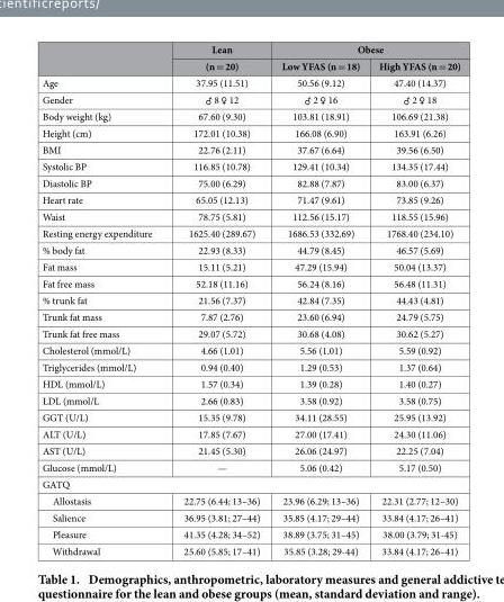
<table><thead><tr><td rowspan="2"></td><td rowspan="2">Lean (n = 20)</td><td colspan="2">Obese</td></tr><tr><td>Low YFAS (n = 18)</td><td>High YFAS (n = 20)</td></tr></thead><tbody><tr><td>Age</td><td>37.95 (11.51)</td><td>50.56 (9.12)</td><td>47.40 (14.37)</td></tr><tr><td>Gender</td><td>♂ 8 ♀ 12</td><td>♂ 2 ♀ 16</td><td>♂ 2 ♀ 18</td></tr><tr><td>Body weight (kg)</td><td>67.60 (9.30)</td><td>103.81 (18.91)</td><td>106.69 (21.38)</td></tr><tr><td>Height (cm)</td><td>172.01 (10.38)</td><td>166.08 (6.90)</td><td>163.91 (6.26)</td></tr><tr><td>BMI</td><td>22.76 (2.11)</td><td>37.67 (6.64)</td><td>39.56 (6.50)</td></tr><tr><td>Systolic BP</td><td>116.85 (10.78)</td><td>129.41 (10.34)</td><td>134.35 (17.44)</td></tr><tr><td>Diastolic BP</td><td>75.00 (6.29)</td><td>82.88 (7.87)</td><td>83.00 (6.37)</td></tr><tr><td>Heart rate</td><td>65.05 (12.13)</td><td>71.47 (9.61)</td><td>73.85 (9.26)</td></tr><tr><td>Waist</td><td>78.75 (5.81)</td><td>112.56 (15.17)</td><td>118.55 (15.96)</td></tr><tr><td>Resting energy expenditure</td><td>1625.40 (289.67)</td><td>1686.53 (332.69)</td><td>1768.40 (234.10)</td></tr><tr><td>% body fat</td><td>22.93 (8.33)</td><td>44.79 (8.45)</td><td>46.57 (5.69)</td></tr><tr><td>Fat mass</td><td>15.11 (5.21)</td><td>47.29 (15.94)</td><td>50.04 (13.37)</td></tr><tr><td>Fat free mass</td><td>52.18 (11.16)</td><td>56.24 (8.16)</td><td>56.48 (11.31)</td></tr><tr><td>% trunk fat</td><td>21.56 (7.37)</td><td>42.84 (7.35)</td><td>44.43 (4.81)</td></tr><tr><td>Trunk fat mass</td><td>7.87 (2.76)</td><td>23.60 (6.94)</td><td>24.79 (5.75)</td></tr><tr><td>Trunk fat free mass</td><td>29.07 (5.72)</td><td>30.68 (4.08)</td><td>30.62 (5.27)</td></tr><tr><td>Cholesterol (mmol/L)</td><td>4.66 (1.01)</td><td>5.56 (1.01)</td><td>5.59 (0.92)</td></tr><tr><td>Triglycerides (mmol/L)</td><td>0.94 (0.40)</td><td>1.29 (0.53)</td><td>1.37 (0.64)</td></tr><tr><td>HDL (mmol/L)</td><td>1.57 (0.34)</td><td>1.39 (0.28)</td><td>1.40 (0.27)</td></tr><tr><td>LDL (mmol/L</td><td>2.66 (0.83)</td><td>3.58 (0.92)</td><td>3.58 (0.75)</td></tr><tr><td>GGT (U/L)</td><td>15.35 (9.78)</td><td>34.11 (28.55)</td><td>25.95 (13.92)</td></tr><tr><td>ALT (U/L)</td><td>17.85 (7.67)</td><td>27.00 (17.41)</td><td>24.30 (11.06)</td></tr><tr><td>AST (U/L)</td><td>21.45 (5.30)</td><td>26.06 (24.97)</td><td>22.25 (7.04)</td></tr><tr><td>Glucose (mmol/L)</td><td>—</td><td>5.06 (0.42)</td><td>5.17 (0.50)</td></tr><tr><td colspan="4">GATQ</td></tr><tr><td>Allostasis</td><td>22.75 (6.44; 13–36)</td><td>23.96 (6.29; 13–36)</td><td>22.31 (2.77; 12–30)</td></tr><tr><td>Salience</td><td>36.95 (3.81; 27–44)</td><td>35.85 (4.17; 29–44)</td><td>33.84 (4.17; 26–41)</td></tr><tr><td>Pleasure</td><td>41.35 (4.28; 34–52)</td><td>38.89 (3.75; 31–45)</td><td>38.00 (3.79; 31-45)</td></tr><tr><td>Withdrawal</td><td>25.60 (5.85; 17–41)</td><td>35.85 (3.28; 29-44)</td><td>33.84 (4.17; 26–41)</td></tr></tbody></table>